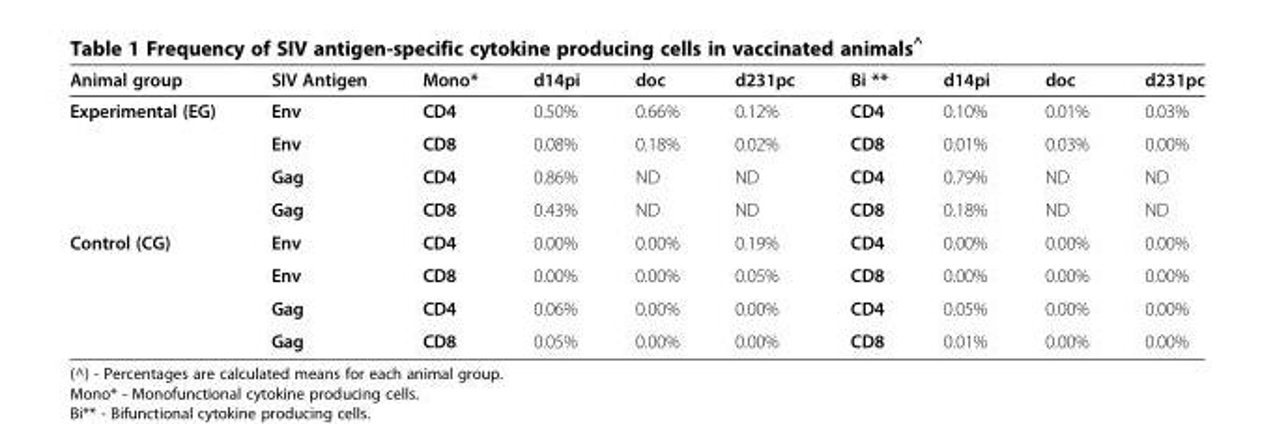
<table><thead><tr><td>Animal group</td><td>SIV Antigen</td><td>Mono*</td><td>d14pi</td><td>doc</td><td>d231pc</td><td>Bi **</td><td>d14pi</td><td>doc</td><td>d231pc</td></tr></thead><tbody><tr><td rowspan="4">Experimental (EG)</td><td>Env</td><td>CD4</td><td>0.50%</td><td>0.66%</td><td>0.12%</td><td>CD4</td><td>0.10%</td><td>0.01%</td><td>0.03%</td></tr><tr><td>Env</td><td>CD8</td><td>0.08%</td><td>0.18%</td><td>0.02%</td><td>CD8</td><td>0.01%</td><td>0.03%</td><td>0.00%</td></tr><tr><td>Gag</td><td>CD4</td><td>0.86%</td><td>ND</td><td>ND</td><td>CD4</td><td>0.79%</td><td>ND</td><td>ND</td></tr><tr><td>Gag</td><td>CD8</td><td>0.43%</td><td>ND</td><td>ND</td><td>CD8</td><td>0.18%</td><td>ND</td><td>ND</td></tr><tr><td rowspan="4">Control (CG)</td><td>Env</td><td>CD4</td><td>0.00%</td><td>0.00%</td><td>0.19%</td><td>CD4</td><td>0.00%</td><td>0.00%</td><td>0.00%</td></tr><tr><td>Env</td><td>CD8</td><td>0.00%</td><td>0.00%</td><td>0.05%</td><td>CD8</td><td>0.00%</td><td>0.00%</td><td>0.00%</td></tr><tr><td>Gag</td><td>CD4</td><td>0.06%</td><td>0.00%</td><td>0.00%</td><td>CD4</td><td>0.05%</td><td>0.00%</td><td>0.00%</td></tr><tr><td>Gag</td><td>CD8</td><td>0.05%</td><td>0.00%</td><td>0.00%</td><td>CD8</td><td>0.01%</td><td>0.00%</td><td>0.00%</td></tr></tbody></table>